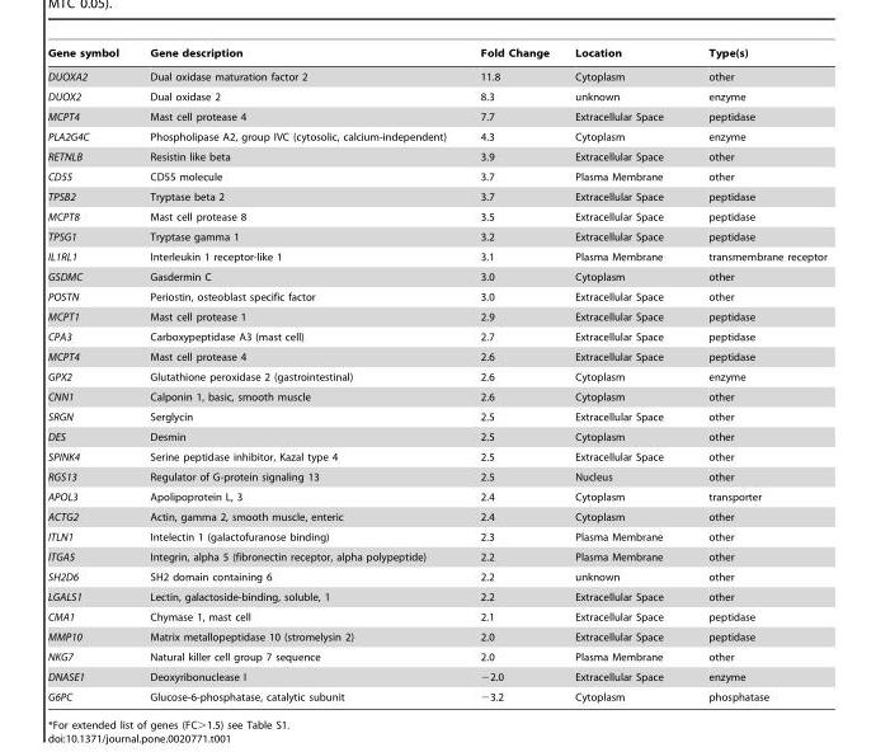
<table><thead><tr><td>Gene symbol</td><td>Gene description</td><td>Fold Change</td><td>Location</td><td>Type(s)</td></tr></thead><tbody><tr><td>DUOXA2</td><td>Dual oxidase maturation factor 2</td><td>11.8</td><td>Cytoplasm</td><td>other</td></tr><tr><td>DUOX2</td><td>Dual oxidase 2</td><td>8.3</td><td>unknown</td><td>enzyme</td></tr><tr><td>MCPT4</td><td>Mast cell protease 4</td><td>7.7</td><td>Extracellular Space</td><td>peptidase</td></tr><tr><td>PLA2G4C</td><td>Phospholipase A2, group IVC (cytosolic, calcium-independent)</td><td>4.3</td><td>Cytoplasm</td><td>enzyme</td></tr><tr><td>RETNLB</td><td>Resistin like beta</td><td>3.9</td><td>Extracellular Space</td><td>other</td></tr><tr><td>CD55</td><td>CD55 molecule</td><td>3.7</td><td>Plasma Membrane</td><td>other</td></tr><tr><td>TPSB2</td><td>Tryptase beta 2</td><td>3.7</td><td>Extracellular Space</td><td>peptidase</td></tr><tr><td>MCPT8</td><td>Mast cell protease 8</td><td>3.5</td><td>Extracellular Space</td><td>peptidase</td></tr><tr><td>TPSG1</td><td>Tryptase gamma 1</td><td>3.2</td><td>Extracellular Space</td><td>peptidase</td></tr><tr><td>IL1RL1</td><td>Interleukin 1 receptor-like 1</td><td>3.1</td><td>Plasma Membrane</td><td>transmembrane receptor</td></tr><tr><td>GSDMC</td><td>Gasdermin C</td><td>3.0</td><td>Cytoplasm</td><td>other</td></tr><tr><td>POSTN</td><td>Periostin, osteoblast specific factor</td><td>3.0</td><td>Extracellular Space</td><td>other</td></tr><tr><td>MCPT1</td><td>Mast cell protease 1</td><td>2.9</td><td>Extracellular Space</td><td>peptidase</td></tr><tr><td>CPA3</td><td>Carboxypeptidase A3 (mast cell)</td><td>2.7</td><td>Extracellular Space</td><td>peptidase</td></tr><tr><td>MCPT4</td><td>Mast cell protease 4</td><td>2.6</td><td>Extracellular Space</td><td>peptidase</td></tr><tr><td>GPX2</td><td>Glutathione peroxidase 2 (gastrointestinal)</td><td>2.6</td><td>Cytoplasm</td><td>enzyme</td></tr><tr><td>CNN1</td><td>Calponin 1, basic, smooth muscle</td><td>2.6</td><td>Cytoplasm</td><td>other</td></tr><tr><td>SRGN</td><td>Serglycin</td><td>2.5</td><td>Extracellular Space</td><td>other</td></tr><tr><td>DES</td><td>Desmin</td><td>2.5</td><td>Cytoplasm</td><td>other</td></tr><tr><td>SPINK4</td><td>Serine peptidase inhibitor, Kazal type 4</td><td>2.5</td><td>Extracellular Space</td><td>other</td></tr><tr><td>RGS13</td><td>Regulator of G-protein signaling 13</td><td>2.5</td><td>Nucleus</td><td>other</td></tr><tr><td>APOL3</td><td>Apolipoprotein L, 3</td><td>2.4</td><td>Cytoplasm</td><td>transporter</td></tr><tr><td>ACTG2</td><td>Actin, gamma 2, smooth muscle, enteric</td><td>2.4</td><td>Cytoplasm</td><td>other</td></tr><tr><td>ITLN1</td><td>Intelectin 1 (galactofuranose binding)</td><td>2.3</td><td>Plasma Membrane</td><td>other</td></tr><tr><td>ITGA5</td><td>Integrin, alpha 5 (fibronectin receptor, alpha polypeptide)</td><td>2.2</td><td>Plasma Membrane</td><td>other</td></tr><tr><td>SH2D6</td><td>SH2 domain containing 6</td><td>2.2</td><td>unknown</td><td>other</td></tr><tr><td>LGALS1</td><td>Lectin, galactoside-binding, soluble, 1</td><td>2.2</td><td>Extracellular Space</td><td>other</td></tr><tr><td>CMA1</td><td>Chymase 1, mast cell</td><td>2.1</td><td>Extracellular Space</td><td>peptidase</td></tr><tr><td>MMP10</td><td>Matrix metallopeptidase 10 (stromelysin 2)</td><td>2.0</td><td>Extracellular Space</td><td>peptidase</td></tr><tr><td>NKG7</td><td>Natural killer cell group 7 sequence</td><td>2.0</td><td>Plasma Membrane</td><td>other</td></tr><tr><td>DNASE1</td><td>Deoxyribonuclease I</td><td>−2.0</td><td>Extracellular Space</td><td>enzyme</td></tr><tr><td>G6PC</td><td>Glucose-6-phosphatase, catalytic subunit</td><td>−3.2</td><td>Cytoplasm</td><td>phosphatase</td></tr></tbody></table>